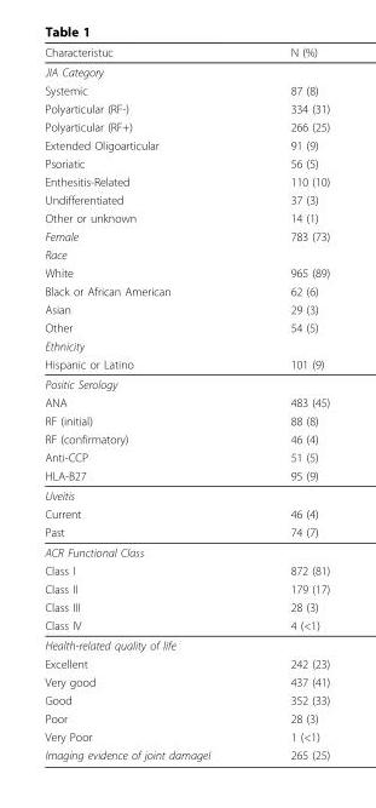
<table><thead><tr><td>Characteristuc</td><td>N (%)</td></tr></thead><tbody><tr><td colspan="2">JIA Category</td></tr><tr><td>Systemic</td><td>87 (8)</td></tr><tr><td>Polyarticular (RF-)</td><td>334 (31)</td></tr><tr><td>Polyarticular (RF+)</td><td>266 (25)</td></tr><tr><td>Extended Oligoarticular</td><td>91 (9)</td></tr><tr><td>Psoriatic</td><td>56 (5)</td></tr><tr><td>Enthesitis-Related</td><td>110 (10)</td></tr><tr><td>Undifferentiated</td><td>37 (3)</td></tr><tr><td>Other or unknown</td><td>14 (1)</td></tr><tr><td>Female</td><td>783 (73)</td></tr><tr><td colspan="2">Race</td></tr><tr><td>White</td><td>965 (89)</td></tr><tr><td>Black or African American</td><td>62 (6)</td></tr><tr><td>Asian</td><td>29 (3)</td></tr><tr><td>Other</td><td>54 (5)</td></tr><tr><td colspan="2">Ethnicity</td></tr><tr><td>Hispanic or Latino</td><td>101 (9)</td></tr><tr><td colspan="2">Positic Serology</td></tr><tr><td>ANA</td><td>483 (45)</td></tr><tr><td>RF (initial)</td><td>88 (8)</td></tr><tr><td>RF (confirmatory)</td><td>46 (4)</td></tr><tr><td>Anti-CCP</td><td>51 (5)</td></tr><tr><td>HLA-B27</td><td>95 (9)</td></tr><tr><td colspan="2">Uveitis</td></tr><tr><td>Current</td><td>46 (4)</td></tr><tr><td>Past</td><td>74 (7)</td></tr><tr><td colspan="2">ACR Functional Class</td></tr><tr><td>Class I</td><td>872 (81)</td></tr><tr><td>Class II</td><td>179 (17)</td></tr><tr><td>Class III</td><td>28 (3)</td></tr><tr><td>Class IV</td><td>4 (&lt;1)</td></tr><tr><td colspan="2">Health-related quality of life</td></tr><tr><td>Excellent</td><td>242 (23)</td></tr><tr><td>Very good</td><td>437 (41)</td></tr><tr><td>Good</td><td>352 (33)</td></tr><tr><td>Poor</td><td>28 (3)</td></tr><tr><td>Very Poor</td><td>1 (&lt;1)</td></tr><tr><td>Imaging evidence of joint damageI</td><td>265 (25)</td></tr></tbody></table>